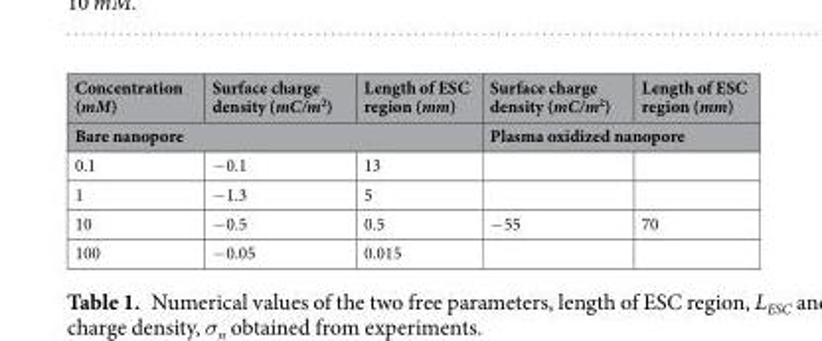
<table><thead><tr><td>Concentration (mM)</td><td>Surface charge density (mC/m<sup>2</sup>)</td><td>Length of ESC region (mm)</td><td>Surface charge density (mC/m<sup>2</sup>)</td><td>Length of ESC region (mm)</td></tr><tr><td colspan="3">Bare nanopore</td><td colspan="2">Plasma oxidized nanopore</td></tr></thead><tbody><tr><td>0.1</td><td>−0.1</td><td>13</td><td></td><td></td></tr><tr><td>1</td><td>−1.3</td><td>5</td><td></td><td></td></tr><tr><td>10</td><td>−0.5</td><td>0.5</td><td>−55</td><td>70</td></tr><tr><td>100</td><td>−0.05</td><td>0.015</td><td></td><td></td></tr></tbody></table>